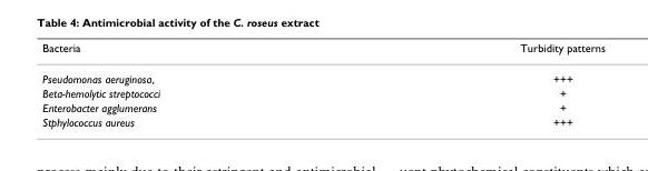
<table><thead><tr><td>Bacteria</td><td>Turbidity patterns</td></tr></thead><tbody><tr><td>Pseudomonas aeruginosa,</td><td>+++</td></tr><tr><td>Beta-hemolytic streptococci</td><td>+</td></tr><tr><td>Enterobacter agglumerans</td><td>+</td></tr><tr><td>Stphylococcus aureus</td><td>+++</td></tr></tbody></table>